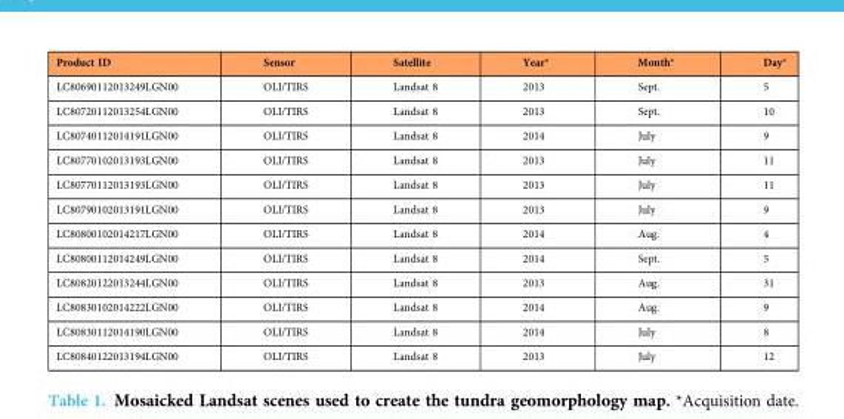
<table><thead><tr><td>Product ID</td><td>Sensor</td><td>Satellite</td><td>Year*</td><td>Month*</td><td>Day*</td></tr></thead><tbody><tr><td>LC80690112013249LGN00</td><td>OLI/TIRS</td><td>Landsat 8</td><td>2013</td><td>Sept.</td><td>5</td></tr><tr><td>LC80720112013254LGN00</td><td>OLI/TIRS</td><td>Landsat 8</td><td>2013</td><td>Sept.</td><td>10</td></tr><tr><td>LC80740112014191LGN00</td><td>OLI/TIRS</td><td>Landsat 8</td><td>2014</td><td>July</td><td>9</td></tr><tr><td>LC80770102013193LGN00</td><td>OLI/TIRS</td><td>Landsat 8</td><td>2013</td><td>July</td><td>11</td></tr><tr><td>LC80770112013193LGN00</td><td>OLI/TIRS</td><td>Landsat 8</td><td>2013</td><td>July</td><td>11</td></tr><tr><td>LC80790102013191LGN00</td><td>OLI/TIRS</td><td>Landsat 8</td><td>2013</td><td>July</td><td>9</td></tr><tr><td>LC80800102014217LGN00</td><td>OLI/TIRS</td><td>Landsat 8</td><td>2014</td><td>Aug.</td><td>4</td></tr><tr><td>LC80800112014249LGN00</td><td>OLI/TIRS</td><td>Landsat 8</td><td>2014</td><td>Sept.</td><td>5</td></tr><tr><td>LC80820122013244LGN00</td><td>OLI/TIRS</td><td>Landsat 8</td><td>2013</td><td>Aug.</td><td>31</td></tr><tr><td>LC80830102014222LGN00</td><td>OLI/TIRS</td><td>Landsat 8</td><td>2014</td><td>Aug.</td><td>9</td></tr><tr><td>LC80830112014190LGN00</td><td>OLI/TIRS</td><td>Landsat 8</td><td>2014</td><td>July</td><td>8</td></tr><tr><td>LC80840122013194LGN00</td><td>OLI/TIRS</td><td>Landsat 8</td><td>2013</td><td>July</td><td>12</td></tr></tbody></table>